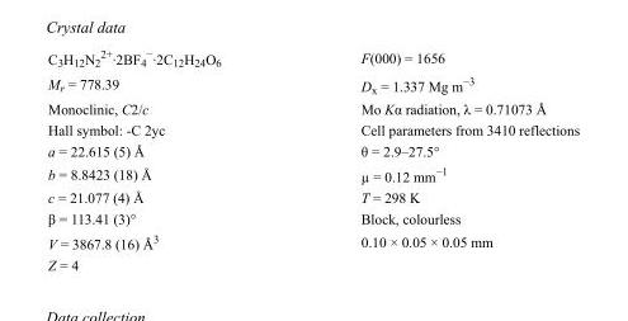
<table><tbody><tr><td>C<sub>3</sub>H<sub>12</sub>N<sub>2</sub> <sup>2+</sup>·2BF<sub>4</sub> <sup>−</sup>·2C<sub>12</sub>H<sub>24</sub>O<sub>6</sub></td><td>F(000) = 1656</td></tr><tr><td>M<sub>r</sub> = 778.39</td><td>D<sub>x</sub> = 1.337 Mg m<sup>−3</sup></td></tr><tr><td>Monoclinic, C2/c</td><td>Mo Kα radiation, λ = 0.71073 Å</td></tr><tr><td>Hall symbol: -C 2yc</td><td>Cell parameters from 3410 reflections</td></tr><tr><td>a = 22.615 (5) Å</td><td>θ = 2.9–27.5°</td></tr><tr><td>b = 8.8423 (18) Å</td><td>µ = 0.12 mm<sup>−1</sup></td></tr><tr><td>c = 21.077 (4) Å</td><td>T = 298 K</td></tr><tr><td>β = 113.41 (3)°</td><td>Block, colourless</td></tr><tr><td>V = 3867.8 (16) Å<sup>3</sup></td><td>0.10 × 0.05 × 0.05 mm</td></tr><tr><td>Z = 4</td><td></td></tr></tbody></table>